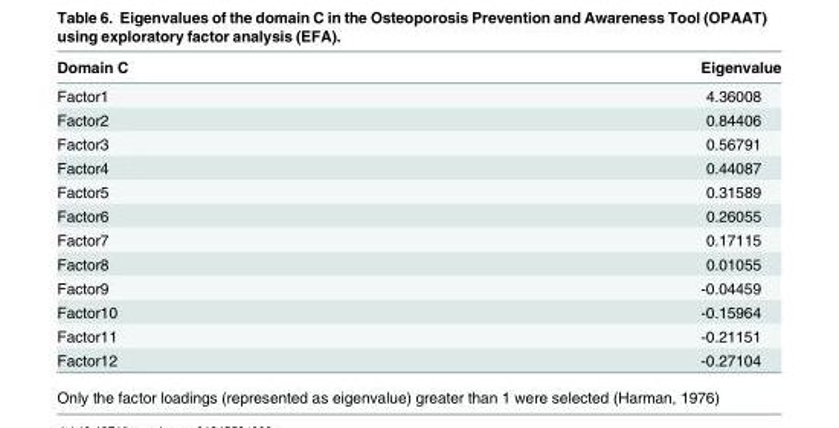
<table><thead><tr><td>Domain C</td><td>Eigenvalue</td></tr></thead><tbody><tr><td>Factor1</td><td>4.36008</td></tr><tr><td>Factor2</td><td>0.84406</td></tr><tr><td>Factor3</td><td>0.56791</td></tr><tr><td>Factor4</td><td>0.44087</td></tr><tr><td>Factor5</td><td>0.31589</td></tr><tr><td>Factor6</td><td>0.26055</td></tr><tr><td>Factor7</td><td>0.17115</td></tr><tr><td>Factor8</td><td>0.01055</td></tr><tr><td>Factor9</td><td>-0.04459</td></tr><tr><td>Factor10</td><td>-0.15964</td></tr><tr><td>Factor11</td><td>-0.21151</td></tr><tr><td>Factor12</td><td>-0.27104</td></tr></tbody></table>